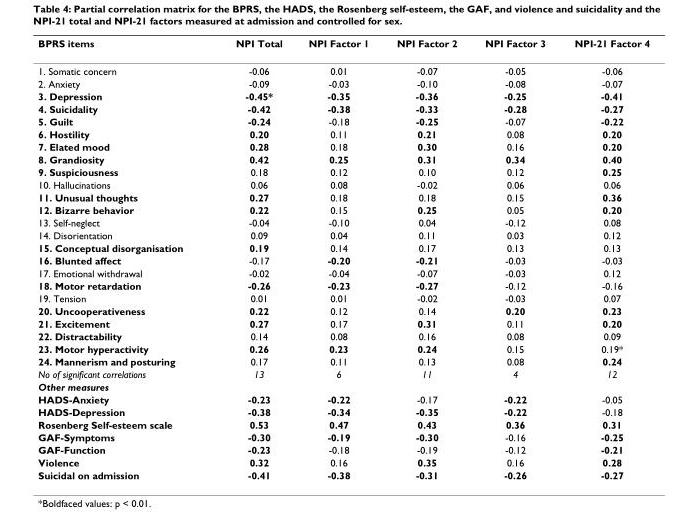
<table><thead><tr><td>BPRS items</td><td>NPI Total</td><td>NPI Factor 1</td><td>NPI Factor 2</td><td>NPI Factor 3</td><td>NPI-21 Factor 4</td></tr></thead><tbody><tr><td>1. Somatic concern</td><td>-0.06</td><td>0.01</td><td>-0.07</td><td>-0.05</td><td>-0.06</td></tr><tr><td>2. Anxiety</td><td>-0.09</td><td>-0.03</td><td>-0.10</td><td>-0.08</td><td>-0.07</td></tr><tr><td>3. Depression</td><td>-0.45*</td><td>-0.35</td><td>-0.36</td><td>-0.25</td><td>-0.41</td></tr><tr><td>4. Suicidality</td><td>-0.42</td><td>-0.38</td><td>-0.33</td><td>-0.28</td><td>-0.27</td></tr><tr><td>5. Guilt</td><td>-0.24</td><td>-0.18</td><td>-0.25</td><td>-0.07</td><td>-0.22</td></tr><tr><td>6. Hostility</td><td>0.20</td><td>0.11</td><td>0.21</td><td>0.08</td><td>0.20</td></tr><tr><td>7. Elated mood</td><td>0.28</td><td>0.18</td><td>0.30</td><td>0.16</td><td>0.20</td></tr><tr><td>8. Grandiosity</td><td>0.42</td><td>0.25</td><td>0.31</td><td>0.34</td><td>0.40</td></tr><tr><td>9. Suspiciousness</td><td>0.18</td><td>0.12</td><td>0.10</td><td>0.12</td><td>0.25</td></tr><tr><td>10. Hallucinations</td><td>0.06</td><td>0.08</td><td>-0.02</td><td>0.06</td><td>0.06</td></tr><tr><td>11. Unusual thoughts</td><td>0.27</td><td>0.18</td><td>0.18</td><td>0.15</td><td>0.36</td></tr><tr><td>12. Bizarre behavior</td><td>0.22</td><td>0.15</td><td>0.25</td><td>0.05</td><td>0.20</td></tr><tr><td>13. Self-neglect</td><td>-0.04</td><td>-0.10</td><td>0.04</td><td>-0.12</td><td>0.08</td></tr><tr><td>14. Disorientation</td><td>0.09</td><td>0.04</td><td>0.11</td><td>0.03</td><td>0.12</td></tr><tr><td>15. Conceptual disorganisation</td><td>0.19</td><td>0.14</td><td>0.17</td><td>0.13</td><td>0.13</td></tr><tr><td>16. Blunted affect</td><td>-0.17</td><td>-0.20</td><td>-0.21</td><td>-0.03</td><td>-0.03</td></tr><tr><td>17. Emotional withdrawal</td><td>-0.02</td><td>-0.04</td><td>-0.07</td><td>-0.03</td><td>0.12</td></tr><tr><td>18. Motor retardation</td><td>-0.26</td><td>-0.23</td><td>-0.27</td><td>-0.12</td><td>-0.16</td></tr><tr><td>19. Tension</td><td>0.01</td><td>0.01</td><td>-0.02</td><td>-0.03</td><td>0.07</td></tr><tr><td>20. Uncooperativeness</td><td>0.22</td><td>0.12</td><td>0.14</td><td>0.20</td><td>0.23</td></tr><tr><td>21. Excitement</td><td>0.27</td><td>0.17</td><td>0.31</td><td>0.11</td><td>0.20</td></tr><tr><td>22. Distractability</td><td>0.14</td><td>0.08</td><td>0.16</td><td>0.08</td><td>0.09</td></tr><tr><td>23. Motor hyperactivity</td><td>0.26</td><td>0.23</td><td>0.24</td><td>0.15</td><td>0.19*</td></tr><tr><td>24. Mannerism and posturing</td><td>0.17</td><td>0.11</td><td>0.13</td><td>0.08</td><td>0.24</td></tr><tr><td>No of significant correlations</td><td>13</td><td>6</td><td>11</td><td>4</td><td>12</td></tr><tr><td colspan="6">Other measures</td></tr><tr><td>HADS-Anxiety</td><td>-0.23</td><td>-0.22</td><td>-0.17</td><td>-0.22</td><td>-0.05</td></tr><tr><td>HADS-Depression</td><td>-0.38</td><td>-0.34</td><td>-0.35</td><td>-0.22</td><td>-0.18</td></tr><tr><td>Rosenberg Self-esteem scale</td><td>0.53</td><td>0.47</td><td>0.43</td><td>0.36</td><td>0.31</td></tr><tr><td>GAF-Symptoms</td><td>-0.30</td><td>-0.19</td><td>-0.30</td><td>-0.16</td><td>-0.25</td></tr><tr><td>GAF-Function</td><td>-0.23</td><td>-0.18</td><td>-0.19</td><td>-0.12</td><td>-0.21</td></tr><tr><td>Violence</td><td>0.32</td><td>0.16</td><td>0.35</td><td>0.16</td><td>0.28</td></tr><tr><td>Suicidal on admission</td><td>-0.41</td><td>-0.38</td><td>-0.31</td><td>-0.26</td><td>-0.27</td></tr></tbody></table>